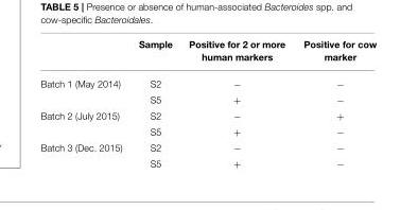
<table><thead><tr><td></td><td>Sample</td><td>Positive for 2 or more human markers</td><td>Positive for cow marker</td></tr></thead><tbody><tr><td rowspan="2">Batch 1 (May 2014)</td><td>S2</td><td>−</td><td>−</td></tr><tr><td>S5</td><td>+</td><td>−</td></tr><tr><td rowspan="2">Batch 2 (July 2015)</td><td>S2</td><td>−</td><td>+</td></tr><tr><td>S5</td><td>+</td><td>−</td></tr><tr><td rowspan="2">Batch 3 (Dec. 2015)</td><td>S2</td><td>−</td><td>−</td></tr><tr><td>S5</td><td>+</td><td>−</td></tr></tbody></table>